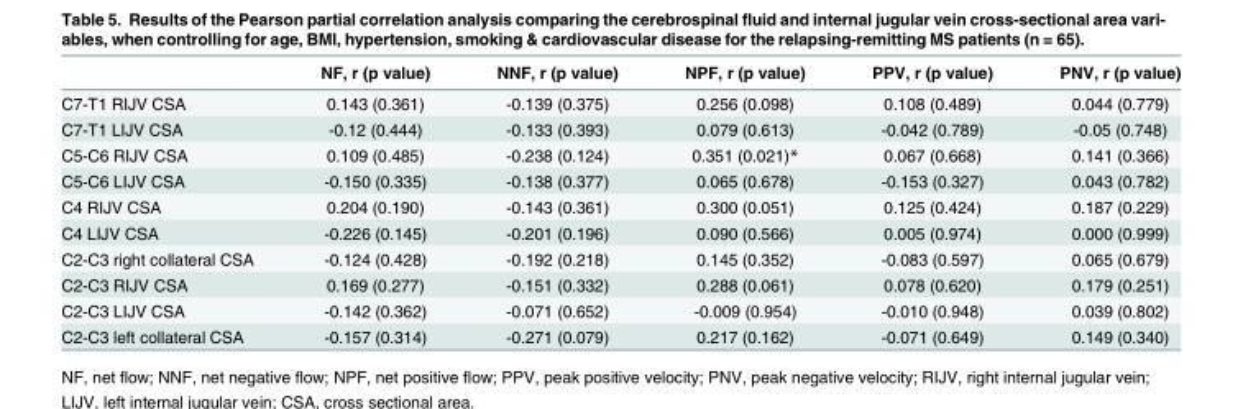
<table><thead><tr><td></td><td>NF, r (p value)</td><td>NNF, r (p value)</td><td>NPF, r (p value)</td><td>PPV, r (p value)</td><td>PNV, r (p value)</td></tr></thead><tbody><tr><td>C7-T1 RIJV CSA</td><td>0.143 (0.361)</td><td>-0.139 (0.375)</td><td>0.256 (0.098)</td><td>0.108 (0.489)</td><td>0.044 (0.779)</td></tr><tr><td>C7-T1 LIJV CSA</td><td>-0.12 (0.444)</td><td>-0.133 (0.393)</td><td>0.079 (0.613)</td><td>-0.042 (0.789)</td><td>-0.05 (0.748)</td></tr><tr><td>C5-C6 RIJV CSA</td><td>0.109 (0.485)</td><td>-0.238 (0.124)</td><td>0.351 (0.021)*</td><td>0.067 (0.668)</td><td>0.141 (0.366)</td></tr><tr><td>C5-C6 LIJV CSA</td><td>-0.150 (0.335)</td><td>-0.138 (0.377)</td><td>0.065 (0.678)</td><td>-0.153 (0.327)</td><td>0.043 (0.782)</td></tr><tr><td>C4 RIJV CSA</td><td>0.204 (0.190)</td><td>-0.143 (0.361)</td><td>0.300 (0.051)</td><td>0.125 (0.424)</td><td>0.187 (0.229)</td></tr><tr><td>C4 LIJV CSA</td><td>-0.226 (0.145)</td><td>-0.201 (0.196)</td><td>0.090 (0.566)</td><td>0.005 (0.974)</td><td>0.000 (0.999)</td></tr><tr><td>C2-C3 right collateral CSA</td><td>-0.124 (0.428)</td><td>-0.192 (0.218)</td><td>0.145 (0.352)</td><td>-0.083 (0.597)</td><td>0.065 (0.679)</td></tr><tr><td>C2-C3 RIJV CSA</td><td>0.169 (0.277)</td><td>-0.151 (0.332)</td><td>0.288 (0.061)</td><td>0.078 (0.620)</td><td>0.179 (0.251)</td></tr><tr><td>C2-C3 LIJV CSA</td><td>-0.142 (0.362)</td><td>-0.071 (0.652)</td><td>-0.009 (0.954)</td><td>-0.010 (0.948)</td><td>0.039 (0.802)</td></tr><tr><td>C2-C3 left collateral CSA</td><td>-0.157 (0.314)</td><td>-0.271 (0.079)</td><td>0.217 (0.162)</td><td>-0.071 (0.649)</td><td>0.149 (0.340)</td></tr></tbody></table>